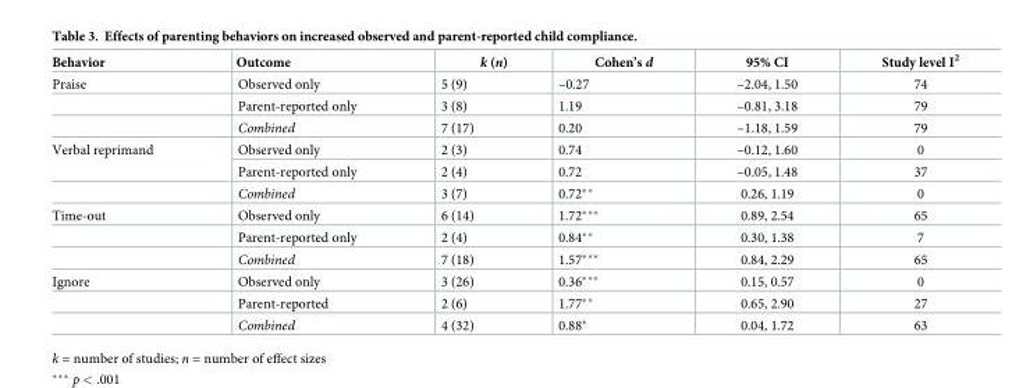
<table><thead><tr><td>Behavior</td><td>Outcome</td><td>k (n)</td><td>Cohen’s d</td><td>95% CI</td><td>Study level I<sup>2</sup></td></tr></thead><tbody><tr><td rowspan="3">Praise</td><td>Observed only</td><td>5 (9)</td><td>–0.27</td><td>–2.04, 1.50</td><td>74</td></tr><tr><td>Parent-reported only</td><td>3 (8)</td><td>1.19</td><td>–0.81, 3.18</td><td>79</td></tr><tr><td>Combined</td><td>7 (17)</td><td>0.20</td><td>–1.18, 1.59</td><td>79</td></tr><tr><td rowspan="3">Verbal reprimand</td><td>Observed only</td><td>2 (3)</td><td>0.74</td><td>–0.12, 1.60</td><td>0</td></tr><tr><td>Parent-reported only</td><td>2 (4)</td><td>0.72</td><td>–0.05, 1.48</td><td>37</td></tr><tr><td>Combined</td><td>3 (7)</td><td>0.72**</td><td>0.26, 1.19</td><td>0</td></tr><tr><td rowspan="3">Time-out</td><td>Observed only</td><td>6 (14)</td><td>1.72***</td><td>0.89, 2.54</td><td>65</td></tr><tr><td>Parent-reported only</td><td>2 (4)</td><td>0.84**</td><td>0.30, 1.38</td><td>7</td></tr><tr><td>Combined</td><td>7 (18)</td><td>1.57***</td><td>0.84, 2.29</td><td>65</td></tr><tr><td rowspan="3">Ignore</td><td>Observed only</td><td>3 (26)</td><td>0.36***</td><td>0.15, 0.57</td><td>0</td></tr><tr><td>Parent-reported</td><td>2 (6)</td><td>1.77**</td><td>0.65, 2.90</td><td>27</td></tr><tr><td>Combined</td><td>4 (32)</td><td>0.88*</td><td>0.04, 1.72</td><td>63</td></tr></tbody></table>